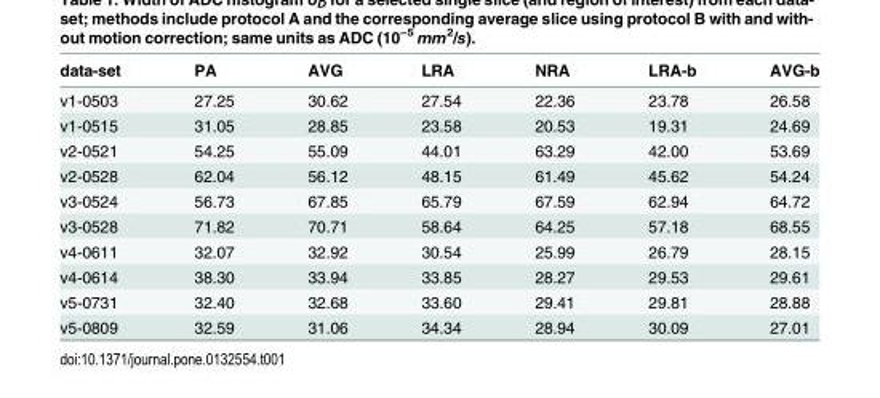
<table><thead><tr><td>data-set</td><td>PA</td><td>AVG</td><td>LRA</td><td>NRA</td><td>LRA-b</td><td>AVG-b</td></tr></thead><tbody><tr><td>v1-0503</td><td>27.25</td><td>30.62</td><td>27.54</td><td>22.36</td><td>23.78</td><td>26.58</td></tr><tr><td>v1-0515</td><td>31.05</td><td>28.85</td><td>23.58</td><td>20.53</td><td>19.31</td><td>24.69</td></tr><tr><td>v2-0521</td><td>54.25</td><td>55.09</td><td>44.01</td><td>63.29</td><td>42.00</td><td>53.69</td></tr><tr><td>v2-0528</td><td>62.04</td><td>56.12</td><td>48.15</td><td>61.49</td><td>45.62</td><td>54.24</td></tr><tr><td>v3-0524</td><td>56.73</td><td>67.85</td><td>65.79</td><td>67.59</td><td>62.94</td><td>64.72</td></tr><tr><td>v3-0528</td><td>71.82</td><td>70.71</td><td>58.64</td><td>64.25</td><td>57.18</td><td>68.55</td></tr><tr><td>v4-0611</td><td>32.07</td><td>32.92</td><td>30.54</td><td>25.99</td><td>26.79</td><td>28.15</td></tr><tr><td>v4-0614</td><td>38.30</td><td>33.94</td><td>33.85</td><td>28.27</td><td>29.53</td><td>29.61</td></tr><tr><td>v5-0731</td><td>32.40</td><td>32.68</td><td>33.60</td><td>29.41</td><td>29.81</td><td>28.88</td></tr><tr><td>v5-0809</td><td>32.59</td><td>31.06</td><td>34.34</td><td>28.94</td><td>30.09</td><td>27.01</td></tr></tbody></table>